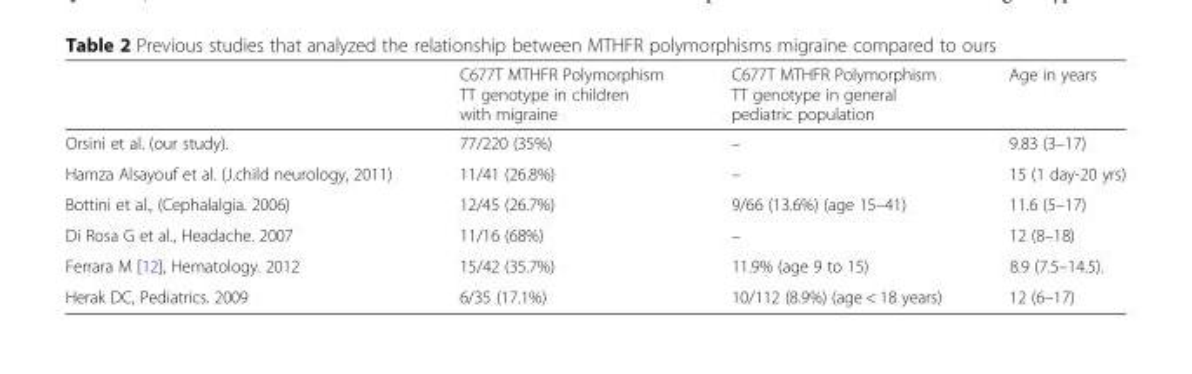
<table><thead><tr><td></td><td>C677T MTHFR Polymorphism TT genotype in children with migraine</td><td>C677T MTHFR Polymorphism TT genotype in general pediatric population</td><td>Age in years</td></tr></thead><tbody><tr><td>Orsini et al. (our study).</td><td>77/220 (35%)</td><td>–</td><td>9.83 (3–17)</td></tr><tr><td>Hamza Alsayouf et al. (J.child neurology, 2011)</td><td>11/41 (26.8%)</td><td>–</td><td>15 (1 day-20 yrs)</td></tr><tr><td>Bottini et al., (Cephalalgia. 2006)</td><td>12/45 (26.7%)</td><td>9/66 (13.6%) (age 15–41)</td><td>11.6 (5–17)</td></tr><tr><td>Di Rosa G et al., Headache. 2007</td><td>11/16 (68%)</td><td>–</td><td>12 (8–18)</td></tr><tr><td>Ferrara M [12], Hematology. 2012</td><td>15/42 (35.7%)</td><td>11.9% (age 9 to 15)</td><td>8.9 (7.5–14.5).</td></tr><tr><td>Herak DC, Pediatrics. 2009</td><td>6/35 (17.1%)</td><td>10/112 (8.9%) (age &lt; 18 years)</td><td>12 (6–17)</td></tr></tbody></table>